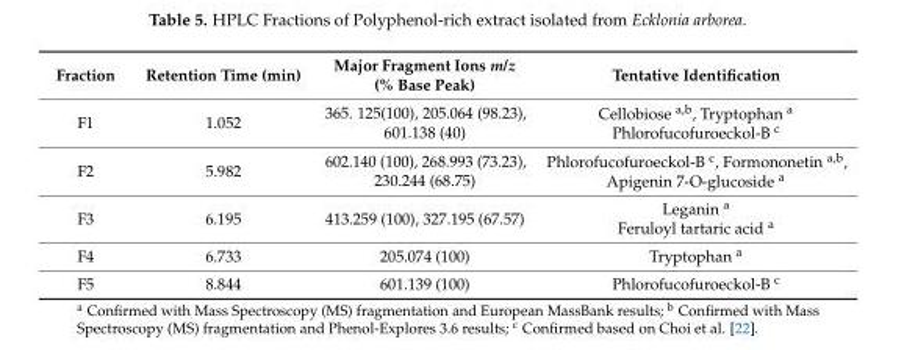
<table><thead><tr><td>Fraction</td><td>Retention Time (min)</td><td>Major Fragment Ions m/z (% Base Peak)</td><td>Tentative Identification</td></tr></thead><tbody><tr><td>F1</td><td>1.052</td><td>365. 125(100), 205.064 (98.23), 601.138 (40)</td><td>Cellobiose <sup>a,b</sup>, Tryptophan <sup>a</sup> Phlorofucofuroeckol-B <sup>c</sup></td></tr><tr><td>F2</td><td>5.982</td><td>602.140 (100), 268.993 (73.23), 230.244 (68.75)</td><td>Phlorofucofuroeckol-B <sup>c</sup>, Formononetin <sup>a,b</sup>, Apigenin 7-O-glucoside <sup>a</sup></td></tr><tr><td>F3</td><td>6.195</td><td>413.259 (100), 327.195 (67.57)</td><td>Leganin <sup>a</sup> Feruloyl tartaric acid <sup>a</sup></td></tr><tr><td>F4</td><td>6.733</td><td>205.074 (100)</td><td>Tryptophan <sup>a</sup></td></tr><tr><td>F5</td><td>8.844</td><td>601.139 (100)</td><td>Phlorofucofuroeckol-B <sup>c</sup></td></tr></tbody></table>